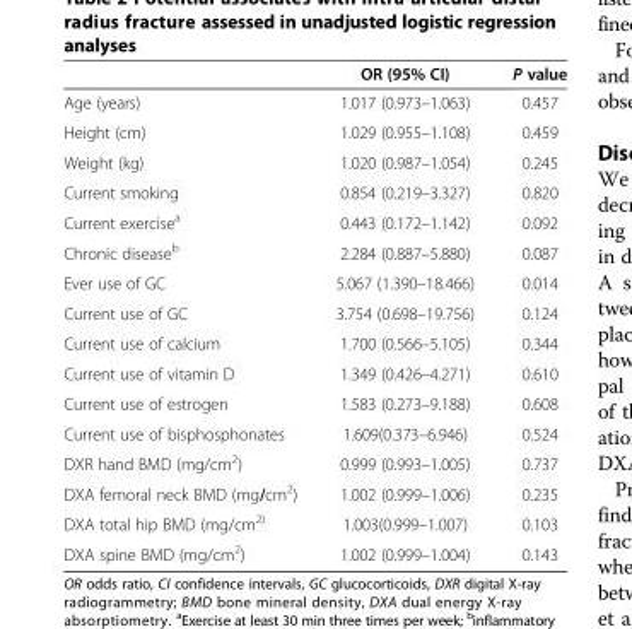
<table><thead><tr><td></td><td>OR (95% CI)</td><td>P value</td></tr></thead><tbody><tr><td>Age (years)</td><td>1.017 (0.973–1.063)</td><td>0.457</td></tr><tr><td>Height (cm)</td><td>1.029 (0.955–1.108)</td><td>0.459</td></tr><tr><td>Weight (kg)</td><td>1.020 (0.987–1.054)</td><td>0.245</td></tr><tr><td>Current smoking</td><td>0.854 (0.219–3.327)</td><td>0.820</td></tr><tr><td>Current exercise<sup>a</sup></td><td>0.443 (0.172–1.142)</td><td>0.092</td></tr><tr><td>Chronic disease<sup>b</sup></td><td>2.284 (0.887–5.880)</td><td>0.087</td></tr><tr><td>Ever use of GC</td><td>5.067 (1.390–18.466)</td><td>0.014</td></tr><tr><td>Current use of GC</td><td>3.754 (0.698–19.756)</td><td>0.124</td></tr><tr><td>Current use of calcium</td><td>1.700 (0.566–5.105)</td><td>0.344</td></tr><tr><td>Current use of vitamin D</td><td>1.349 (0.426–4.271)</td><td>0.610</td></tr><tr><td>Current use of estrogen</td><td>1.583 (0.273–9.188)</td><td>0.608</td></tr><tr><td>Current use of bisphosphonates</td><td>1.609(0.373–6.946)</td><td>0.524</td></tr><tr><td>DXR hand BMD (mg/cm<sup>2</sup>)</td><td>0.999 (0.993–1.005)</td><td>0.737</td></tr><tr><td>DXA femoral neck BMD (mg/cm<sup>2</sup>)</td><td>1.002 (0.999–1.006)</td><td>0.235</td></tr><tr><td>DXA total hip BMD (mg/cm<sup>2)</sup></td><td>1.003(0.999–1.007)</td><td>0.103</td></tr><tr><td>DXA spine BMD (mg/cm<sup>2</sup>)</td><td>1.002 (0.999–1.004)</td><td>0.143</td></tr></tbody></table>